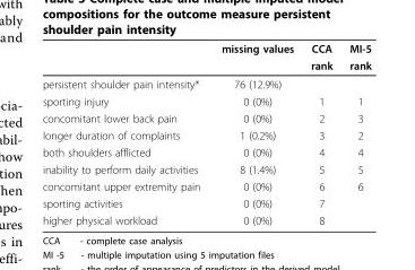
<table><thead><tr><td rowspan="2"></td><td rowspan="2">missing values</td><td rowspan="2">CCA rank</td><td rowspan="2">MI-5 rank</td></tr><tr></tr></thead><tbody><tr><td>persistent shoulder pain intensity*</td><td>76 (12.9%)</td><td></td><td></td></tr><tr><td>sporting injury</td><td>0 (0%)</td><td>1</td><td>1</td></tr><tr><td>concomitant lower back pain</td><td>0 (0%)</td><td>2</td><td>3</td></tr><tr><td>longer duration of complaints</td><td>1 (0.2%)</td><td>3</td><td>2</td></tr><tr><td>both shoulders afflicted</td><td>0 (0%)</td><td>4</td><td>4</td></tr><tr><td>inability to perform daily activities</td><td>8 (1.4%)</td><td>5</td><td>5</td></tr><tr><td>concomitant upper extremity pain</td><td>0 (0%)</td><td>6</td><td>6</td></tr><tr><td>sporting activities</td><td>0 (0%)</td><td>7</td><td></td></tr><tr><td>higher physical workload</td><td>0 (0%)</td><td>8</td><td></td></tr></tbody></table>